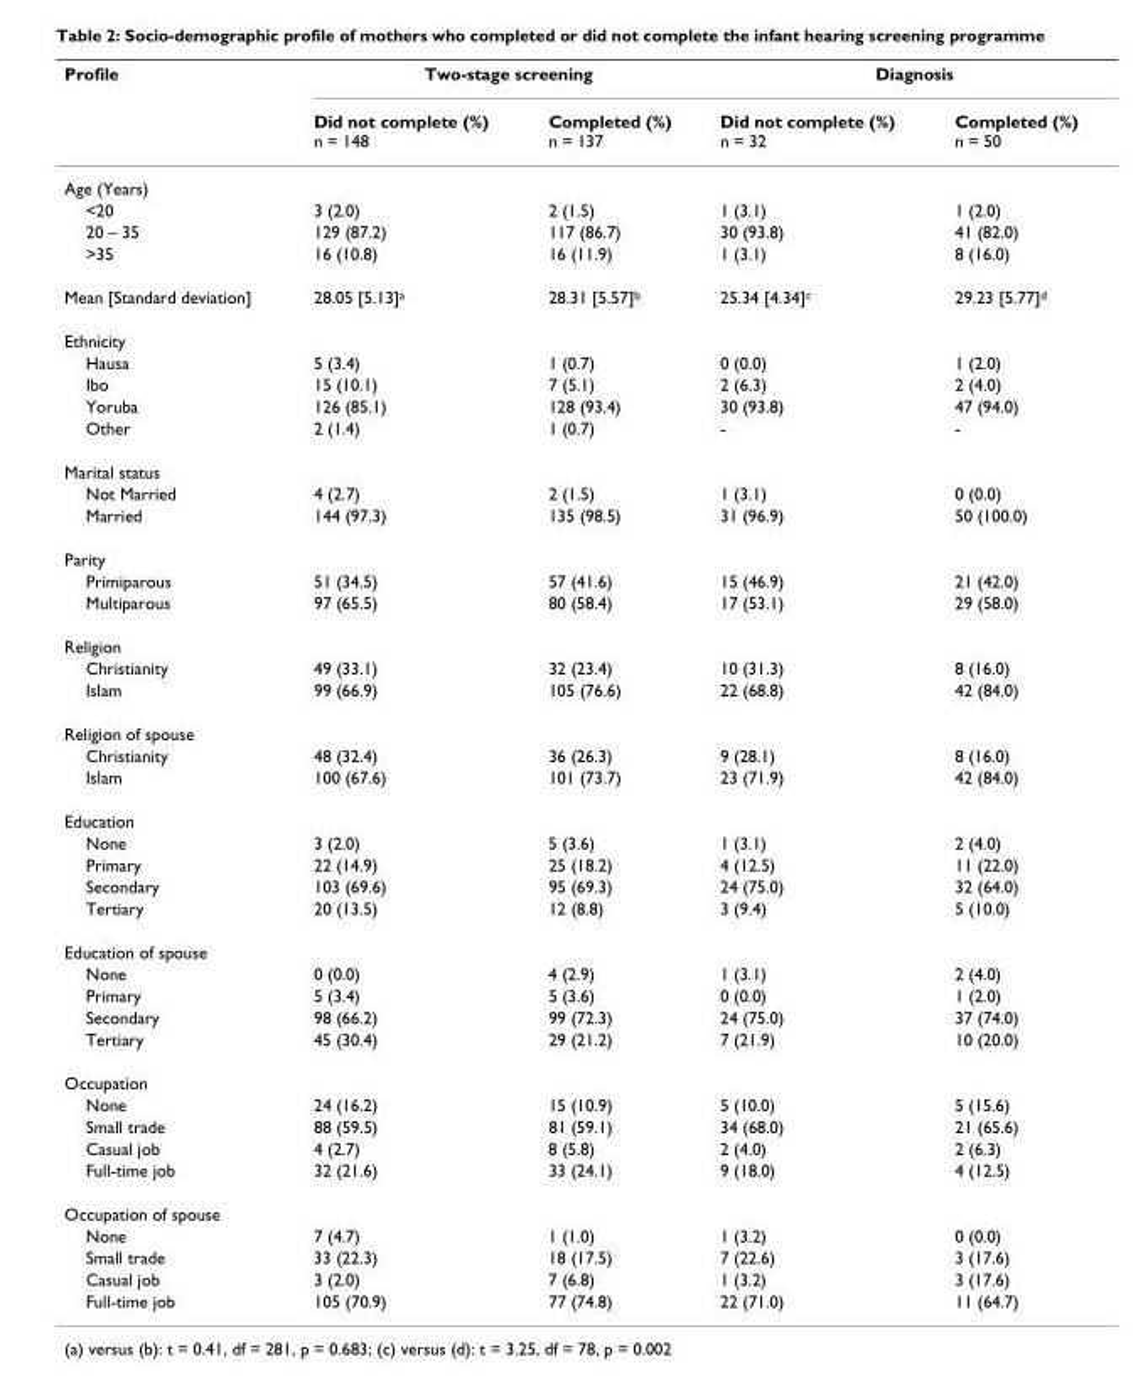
<table><thead><tr><td rowspan="2">Profile</td><td colspan="2">Two-stage screening</td><td colspan="2">Diagnosis</td></tr><tr><td>Did not complete (%) n = 148</td><td>Completed (%) n = 137</td><td>Did not complete (%) n = 32</td><td>Completed (%) n = 50</td></tr></thead><tbody><tr><td colspan="5">Age (Years)</td></tr><tr><td>&lt;20</td><td>3 (2.0)</td><td>2 (1.5)</td><td>1 (3.1)</td><td>1 (2.0)</td></tr><tr><td>20 – 35</td><td>129 (87.2)</td><td>117 (86.7)</td><td>30 (93.8)</td><td>41 (82.0)</td></tr><tr><td>&gt;35</td><td>16 (10.8)</td><td>16 (11.9)</td><td>1 (3.1)</td><td>8 (16.0)</td></tr><tr><td>Mean [Standard deviation]</td><td>28.05 [5.13]<sup>a</sup></td><td>28.31 [5.57]<sup>b</sup></td><td>25.34 [4.34]<sup>c</sup></td><td>29.23 [5.77]<sup>d</sup></td></tr><tr><td colspan="5">Ethnicity</td></tr><tr><td>Hausa</td><td>5 (3.4)</td><td>1 (0.7)</td><td>0 (0.0)</td><td>1 (2.0)</td></tr><tr><td>Ibo</td><td>15 (10.1)</td><td>7 (5.1)</td><td>2 (6.3)</td><td>2 (4.0)</td></tr><tr><td>Yoruba</td><td>126 (85.1)</td><td>128 (93.4)</td><td>30 (93.8)</td><td>47 (94.0)</td></tr><tr><td>Other</td><td>2 (1.4)</td><td>1 (0.7)</td><td>-</td><td>-</td></tr><tr><td colspan="5">Marital status</td></tr><tr><td>Not Married</td><td>4 (2.7)</td><td>2 (1.5)</td><td>1 (3.1)</td><td>0 (0.0)</td></tr><tr><td>Married</td><td>144 (97.3)</td><td>135 (98.5)</td><td>31 (96.9)</td><td>50 (100.0)</td></tr><tr><td colspan="5">Parity</td></tr><tr><td>Primiparous</td><td>51 (34.5)</td><td>57 (41.6)</td><td>15 (46.9)</td><td>21 (42.0)</td></tr><tr><td>Multiparous</td><td>97 (65.5)</td><td>80 (58.4)</td><td>17 (53.1)</td><td>29 (58.0)</td></tr><tr><td colspan="5">Religion</td></tr><tr><td>Christianity</td><td>49 (33.1)</td><td>32 (23.4)</td><td>10 (31.3)</td><td>8 (16.0)</td></tr><tr><td>Islam</td><td>99 (66.9)</td><td>105 (76.6)</td><td>22 (68.8)</td><td>42 (84.0)</td></tr><tr><td colspan="5">Religion of spouse</td></tr><tr><td>Christianity</td><td>48 (32.4)</td><td>36 (26.3)</td><td>9 (28.1)</td><td>8 (16.0)</td></tr><tr><td>Islam</td><td>100 (67.6)</td><td>101 (73.7)</td><td>23 (71.9)</td><td>42 (84.0)</td></tr><tr><td colspan="5">Education</td></tr><tr><td>None</td><td>3 (2.0)</td><td>5 (3.6)</td><td>1 (3.1)</td><td>2 (4.0)</td></tr><tr><td>Primary</td><td>22 (14.9)</td><td>25 (18.2)</td><td>4 (12.5)</td><td>11 (22.0)</td></tr><tr><td>Secondary</td><td>103 (69.6)</td><td>95 (69.3)</td><td>24 (75.0)</td><td>32 (64.0)</td></tr><tr><td>Tertiary</td><td>20 (13.5)</td><td>12 (8.8)</td><td>3 (9.4)</td><td>5 (10.0)</td></tr><tr><td colspan="5">Education of spouse</td></tr><tr><td>None</td><td>0 (0.0)</td><td>4 (2.9)</td><td>1 (3.1)</td><td>2 (4.0)</td></tr><tr><td>Primary</td><td>5 (3.4)</td><td>5 (3.6)</td><td>0 (0.0)</td><td>1 (2.0)</td></tr><tr><td>Secondary</td><td>98 (66.2)</td><td>99 (72.3)</td><td>24 (75.0)</td><td>37 (74.0)</td></tr><tr><td>Tertiary</td><td>45 (30.4)</td><td>29 (21.2)</td><td>7 (21.9)</td><td>10 (20.0)</td></tr><tr><td colspan="5">Occupation</td></tr><tr><td>None</td><td>24 (16.2)</td><td>15 (10.9)</td><td>5 (10.0)</td><td>5 (15.6)</td></tr><tr><td>Small trade</td><td>88 (59.5)</td><td>81 (59.1)</td><td>34 (68.0)</td><td>21 (65.6)</td></tr><tr><td>Casual job</td><td>4 (2.7)</td><td>8 (5.8)</td><td>2 (4.0)</td><td>2 (6.3)</td></tr><tr><td>Full-time job</td><td>32 (21.6)</td><td>33 (24.1)</td><td>9 (18.0)</td><td>4 (12.5)</td></tr><tr><td colspan="5">Occupation of spouse</td></tr><tr><td>None</td><td>7 (4.7)</td><td>1 (1.0)</td><td>1 (3.2)</td><td>0 (0.0)</td></tr><tr><td>Small trade</td><td>33 (22.3)</td><td>18 (17.5)</td><td>7 (22.6)</td><td>3 (17.6)</td></tr><tr><td>Casual job</td><td>3 (2.0)</td><td>7 (6.8)</td><td>1 (3.2)</td><td>3 (17.6)</td></tr><tr><td>Full-time job</td><td>105 (70.9)</td><td>77 (74.8)</td><td>22 (71.0)</td><td>11 (64.7)</td></tr></tbody></table>